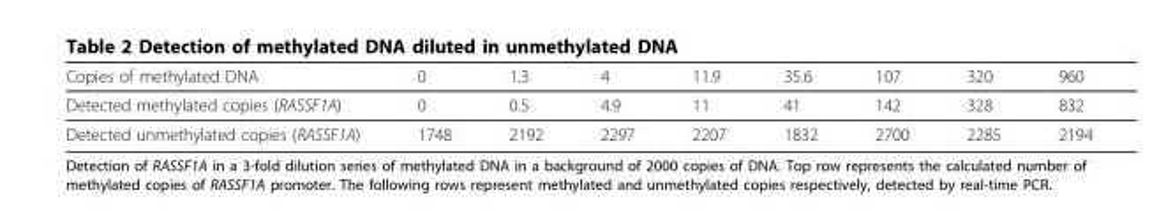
<table><thead><tr><td>Copies of methylated DNA</td><td>0</td><td>1.3</td><td>4</td><td>11.9</td><td>35.6</td><td>107</td><td>320</td><td>960</td></tr></thead><tbody><tr><td>Detected methylated copies (RASSF1A)</td><td>0</td><td>0.5</td><td>4.9</td><td>11</td><td>41</td><td>142</td><td>328</td><td>832</td></tr><tr><td>Detected unmethylated copies (RASSF1A)</td><td>1748</td><td>2192</td><td>2297</td><td>2207</td><td>1832</td><td>2700</td><td>2285</td><td>2194</td></tr></tbody></table>